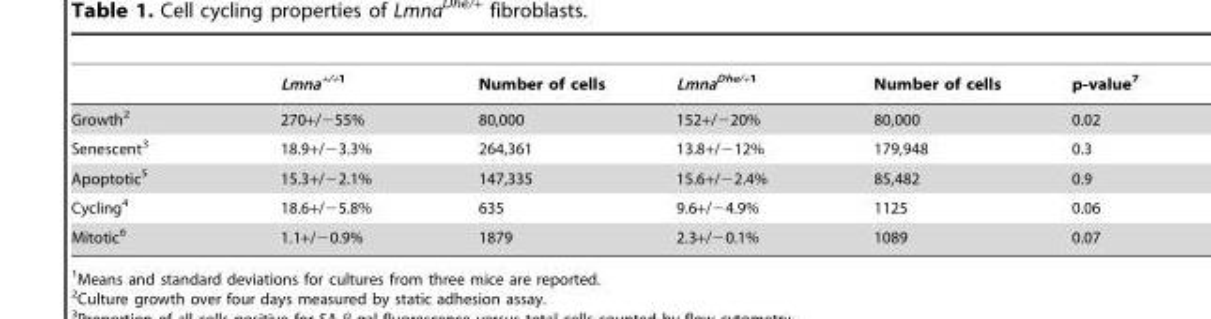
<table><thead><tr><td></td><td>Lmna<sup>+/+</sup>1</td><td>Number of cells</td><td>Lmna<sup>Dhe/+</sup>1</td><td>Number of cells</td><td>p-value<sup>7</sup></td></tr></thead><tbody><tr><td>Growth<sup>2</sup></td><td>270+/−55%</td><td>80,000</td><td>152+/−20%</td><td>80,000</td><td>0.02</td></tr><tr><td>Senescent<sup>3</sup></td><td>18.9+/−3.3%</td><td>264,361</td><td>13.8+/−12%</td><td>179,948</td><td>0.3</td></tr><tr><td>Apoptotic<sup>5</sup></td><td>15.3+/−2.1%</td><td>147,335</td><td>15.6+/−2.4%</td><td>85,482</td><td>0.9</td></tr><tr><td>Cycling<sup>4</sup></td><td>18.6+/−5.8%</td><td>635</td><td>9.6+/−4.9%</td><td>1125</td><td>0.06</td></tr><tr><td>Mitotic<sup>6</sup></td><td>1.1+/−0.9%</td><td>1879</td><td>2.3+/−0.1%</td><td>1089</td><td>0.07</td></tr></tbody></table>